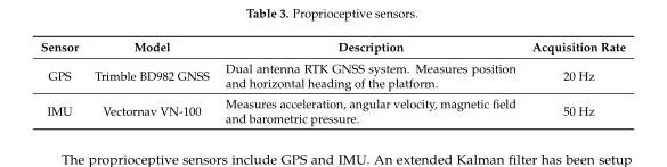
<table><thead><tr><td>Sensor</td><td>Model</td><td>Description</td><td>Acquisition Rate</td></tr></thead><tbody><tr><td>GPS</td><td>Trimble BD982 GNSS</td><td>Dual antenna RTK GNSS system. Measures position and horizontal heading of the platform.</td><td>20 Hz</td></tr><tr><td>IMU</td><td>Vectornav VN-100</td><td>Measures acceleration, angular velocity, magnetic field and barometric pressure.</td><td>50 Hz</td></tr></tbody></table>